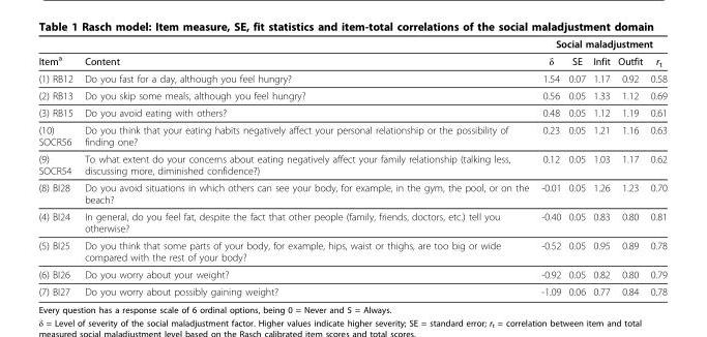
<table><thead><tr><td rowspan="2">Item<sup>a</sup></td><td rowspan="2">Content</td><td colspan="5">Social maladjustment</td></tr><tr><td>δ</td><td>SE</td><td>Infit</td><td>Outfit</td><td>r<sub>t</sub></td></tr></thead><tbody><tr><td>(1) RB12</td><td>Do you fast for a day, although you feel hungry?</td><td>1.54</td><td>0.07</td><td>1.17</td><td>0.92</td><td>0.58</td></tr><tr><td>(2) RB13</td><td>Do you skip some meals, although you feel hungry?</td><td>0.56</td><td>0.05</td><td>1.33</td><td>1.12</td><td>0.69</td></tr><tr><td>(3) RB15</td><td>Do you avoid eating with others?</td><td>0.48</td><td>0.05</td><td>1.12</td><td>1.19</td><td>0.61</td></tr><tr><td>(10) SOCR56</td><td>Do you think that your eating habits negatively affect your personal relationship or the possibility of finding one?</td><td>0.23</td><td>0.05</td><td>1.21</td><td>1.16</td><td>0.63</td></tr><tr><td>(9) SOCR54</td><td>To what extent do your concerns about eating negatively affect your family relationship (talking less, discussing more, diminished confidence?)</td><td>0.12</td><td>0.05</td><td>1.03</td><td>1.17</td><td>0.62</td></tr><tr><td>(8) BI28</td><td>Do you avoid situations in which others can see your body, for example, in the gym, the pool, or on the beach?</td><td>-0.01</td><td>0.05</td><td>1.26</td><td>1.23</td><td>0.70</td></tr><tr><td>(4) BI24</td><td>In general, do you feel fat, despite the fact that other people (family, friends, doctors, etc.) tell you otherwise?</td><td>-0.40</td><td>0.05</td><td>0.83</td><td>0.80</td><td>0.81</td></tr><tr><td>(5) BI25</td><td>Do you think that some parts of your body, for example, hips, waist or thighs, are too big or wide compared with the rest of your body?</td><td>-0.52</td><td>0.05</td><td>0.95</td><td>0.89</td><td>0.78</td></tr><tr><td>(6) BI26</td><td>Do you worry about your weight?</td><td>-0.92</td><td>0.05</td><td>0.82</td><td>0.80</td><td>0.79</td></tr><tr><td>(7) BI27</td><td>Do you worry about possibly gaining weight?</td><td>-1.09</td><td>0.06</td><td>0.77</td><td>0.84</td><td>0.78</td></tr></tbody></table>